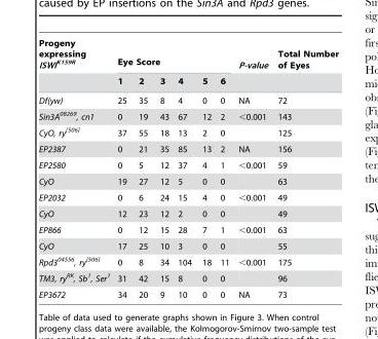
<table><thead><tr><td rowspan="2">Progeny expressing ISWIK159R</td><td colspan="6">Eye Score</td><td rowspan="2">P-value</td><td rowspan="2">Total Number of Eyes</td></tr><tr><td>1</td><td>2</td><td>3</td><td>4</td><td>5</td><td>6</td></tr></thead><tbody><tr><td>Df(yw)</td><td>25</td><td>35</td><td>8</td><td>4</td><td>0</td><td>0</td><td>NA</td><td>72</td></tr><tr><td>Sin3A<sup>08269</sup>, cn1</td><td>0</td><td>19</td><td>43</td><td>67</td><td>12</td><td>2</td><td>&lt;0.001</td><td>143</td></tr><tr><td>CyO, ry<sup>[506]</sup></td><td>37</td><td>55</td><td>18</td><td>13</td><td>2</td><td>0</td><td></td><td>125</td></tr><tr><td>EP2387</td><td>0</td><td>21</td><td>35</td><td>85</td><td>13</td><td>2</td><td>NA</td><td>156</td></tr><tr><td>EP2580</td><td>0</td><td>5</td><td>12</td><td>37</td><td>4</td><td>1</td><td>&lt;0.001</td><td>59</td></tr><tr><td>CyO</td><td>19</td><td>27</td><td>12</td><td>5</td><td>0</td><td>0</td><td></td><td>63</td></tr><tr><td>EP2032</td><td>0</td><td>6</td><td>24</td><td>15</td><td>4</td><td>0</td><td>&lt;0.001</td><td>49</td></tr><tr><td>CyO</td><td>12</td><td>23</td><td>12</td><td>2</td><td>0</td><td>0</td><td></td><td>49</td></tr><tr><td>EP866</td><td>0</td><td>12</td><td>15</td><td>28</td><td>7</td><td>1</td><td>&lt;0.001</td><td>63</td></tr><tr><td>CyO</td><td>17</td><td>25</td><td>10</td><td>3</td><td>0</td><td>0</td><td></td><td>55</td></tr><tr><td>Rpd3<sup>04556</sup>, ry<sup>[506]</sup></td><td>0</td><td>8</td><td>34</td><td>104</td><td>18</td><td>11</td><td>&lt;0.001</td><td>175</td></tr><tr><td>TM3, ry<sup>RK</sup>, Sb<sup>1</sup>, Ser<sup>1</sup></td><td>31</td><td>42</td><td>15</td><td>8</td><td>0</td><td>0</td><td></td><td>96</td></tr><tr><td>EP3672</td><td>34</td><td>20</td><td>9</td><td>10</td><td>0</td><td>0</td><td>NA</td><td>73</td></tr></tbody></table>